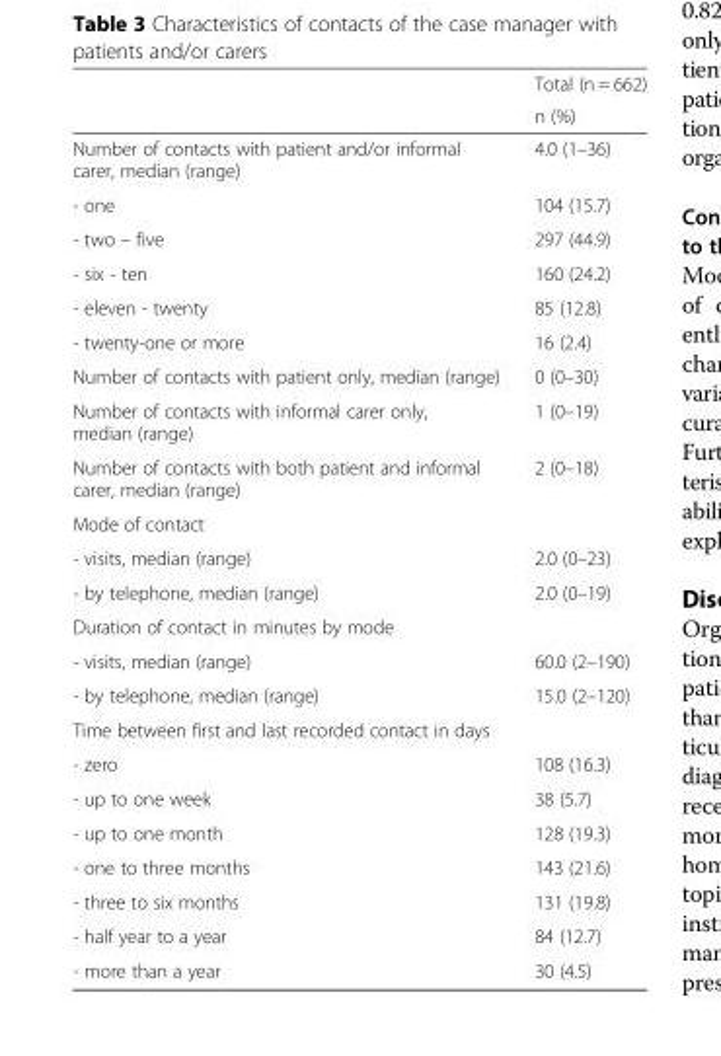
<table><thead><tr><td rowspan="2"></td><td rowspan="2">Total (n = 662) n (%)</td></tr><tr></tr></thead><tbody><tr><td>Number of contacts with patient and/or informal carer, median (range)</td><td>4.0 (1–36)</td></tr><tr><td>- one</td><td>104 (15.7)</td></tr><tr><td>- two – five</td><td>297 (44.9)</td></tr><tr><td>- six - ten</td><td>160 (24.2)</td></tr><tr><td>- eleven - twenty</td><td>85 (12.8)</td></tr><tr><td>- twenty-one or more</td><td>16 (2.4)</td></tr><tr><td>Number of contacts with patient only, median (range)</td><td>0 (0–30)</td></tr><tr><td>Number of contacts with informal carer only, median (range)</td><td>1 (0–19)</td></tr><tr><td>Number of contacts with both patient and informal carer, median (range)</td><td>2 (0–18)</td></tr><tr><td colspan="2">Mode of contact</td></tr><tr><td>- visits, median (range)</td><td>2.0 (0–23)</td></tr><tr><td>- by telephone, median (range)</td><td>2.0 (0–19)</td></tr><tr><td colspan="2">Duration of contact in minutes by mode</td></tr><tr><td>- visits, median (range)</td><td>60.0 (2–190)</td></tr><tr><td>- by telephone, median (range)</td><td>15.0 (2–120)</td></tr><tr><td colspan="2">Time between first and last recorded contact in days</td></tr><tr><td>- zero</td><td>108 (16.3)</td></tr><tr><td>- up to one week</td><td>38 (5.7)</td></tr><tr><td>- up to one month</td><td>128 (19.3)</td></tr><tr><td>- one to three months</td><td>143 (21.6)</td></tr><tr><td>- three to six months</td><td>131 (19.8)</td></tr><tr><td>- half year to a year</td><td>84 (12.7)</td></tr><tr><td>- more than a year</td><td>30 (4.5)</td></tr></tbody></table>